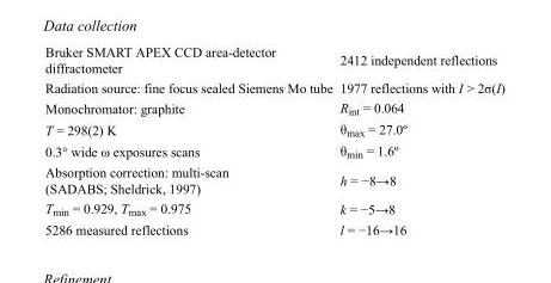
<table><tbody><tr><td>Bruker SMART APEX CCD area-detector diffractometer</td><td>2412 independent reflections</td></tr><tr><td>Radiation source: fine focus sealed Siemens Mo tube</td><td>1977 reflections with I &gt; 2σ(I)</td></tr><tr><td>Monochromator: graphite</td><td>R<sub>int</sub> = 0.064</td></tr><tr><td>T = 298(2) K</td><td>θ<sub>max</sub> = 27.0º</td></tr><tr><td>0.3° wide ω exposures scans</td><td>θ<sub>min</sub> = 1.6º</td></tr><tr><td>Absorption correction: multi-scan (SADABS; Sheldrick, 1997)</td><td>h = −8→8</td></tr><tr><td>T<sub>min</sub> = 0.929, T<sub>max</sub> = 0.975</td><td>k = −5→8</td></tr><tr><td>5286 measured reflections</td><td>l = −16→16</td></tr></tbody></table>